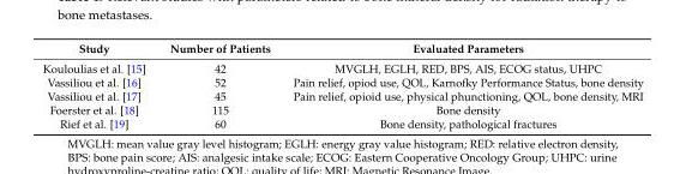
<table><thead><tr><td>Study</td><td>Number of Patients</td><td>Evaluated Parameters</td></tr></thead><tbody><tr><td>Kouloulias et al. [15]</td><td>42</td><td>MVGLH, EGLH, RED, BPS, AIS, ECOG status, UHPC</td></tr><tr><td>Vassiliou et al. [16]</td><td>52</td><td>Pain relief, opiod use, QOL, Karnofky Performance Status, bone density</td></tr><tr><td>Vassiliou et al. [17]</td><td>45</td><td>Pain relief, opioid use, physical phunctioning, QOL, bone density, MRI</td></tr><tr><td>Foerster et al. [18]</td><td>115</td><td>Bone density</td></tr><tr><td>Rief et al. [19]</td><td>60</td><td>Bone density, pathological fractures</td></tr></tbody></table>